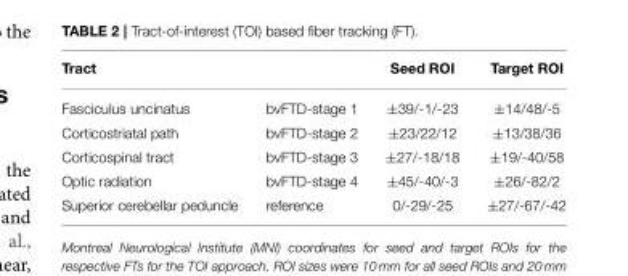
<table><thead><tr><td>Tract</td><td></td><td>Seed ROI</td><td>Target ROI</td></tr></thead><tbody><tr><td>Fasciculus uncinatus</td><td>bvFTD-stage 1</td><td>±39/-1/-23</td><td>±14/48/-5</td></tr><tr><td>Corticostriatal path</td><td>bvFTD-stage 2</td><td>±23/22/12</td><td>±13/38/36</td></tr><tr><td>Corticospinal tract</td><td>bvFTD-stage 3</td><td>±27/-18/18</td><td>±19/-40/58</td></tr><tr><td>Optic radiation</td><td>bvFTD-stage 4</td><td>±45/-40/-3</td><td>±26/-82/2</td></tr><tr><td>Superior cerebellar peduncle</td><td>reference</td><td>0/-29/-25</td><td>±27/-67/-42</td></tr></tbody></table>